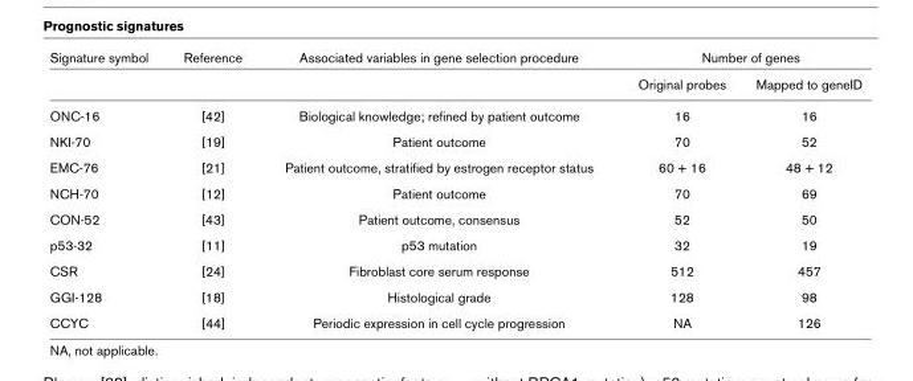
<table><thead><tr><td rowspan="2">Signature symbol</td><td rowspan="2">Reference</td><td rowspan="2">Associated variables in gene selection procedure</td><td colspan="2">Number of genes</td></tr><tr><td>Original probes</td><td>Mapped to geneID</td></tr></thead><tbody><tr><td>ONC-16</td><td>[42]</td><td>Biological knowledge; refined by patient outcome</td><td>16</td><td>16</td></tr><tr><td>NKI-70</td><td>[19]</td><td>Patient outcome</td><td>70</td><td>52</td></tr><tr><td>EMC-76</td><td>[21]</td><td>Patient outcome, stratified by estrogen receptor status</td><td>60 + 16</td><td>48 + 12</td></tr><tr><td>NCH-70</td><td>[12]</td><td>Patient outcome</td><td>70</td><td>69</td></tr><tr><td>CON-52</td><td>[43]</td><td>Patient outcome, consensus</td><td>52</td><td>50</td></tr><tr><td>p53-32</td><td>[11]</td><td>p53 mutation</td><td>32</td><td>19</td></tr><tr><td>CSR</td><td>[24]</td><td>Fibroblast core serum response</td><td>512</td><td>457</td></tr><tr><td>GGI-128</td><td>[18]</td><td>Histological grade</td><td>128</td><td>98</td></tr><tr><td>CCYC</td><td>[44]</td><td>Periodic expression in cell cycle progression</td><td>NA</td><td>126</td></tr></tbody></table>